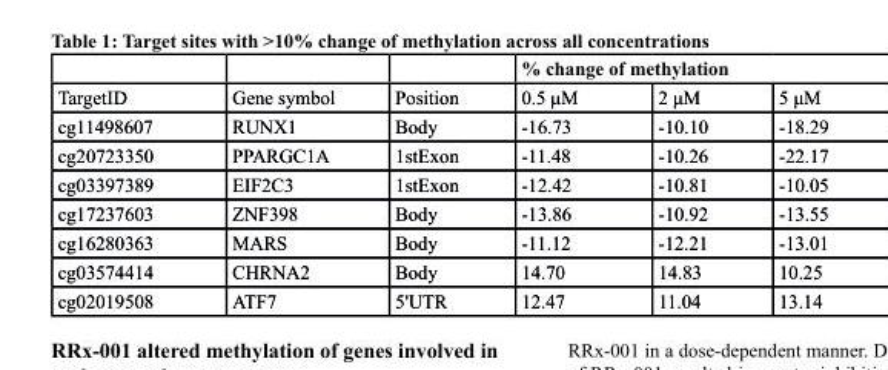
<table><thead><tr><td rowspan="2">TargetID</td><td rowspan="2">Gene symbol</td><td rowspan="2">Position</td><td colspan="3">% change of methylation</td></tr><tr><td>0.5 μM</td><td>2 μM</td><td>5 μM</td></tr></thead><tbody><tr><td>cg11498607</td><td>RUNX1</td><td>Body</td><td>-16.73</td><td>-10.10</td><td>-18.29</td></tr><tr><td>cg20723350</td><td>PPARGC1A</td><td>1stExon</td><td>-11.48</td><td>-10.26</td><td>-22.17</td></tr><tr><td>cg03397389</td><td>EIF2C3</td><td>1stExon</td><td>-12.42</td><td>-10.81</td><td>-10.05</td></tr><tr><td>cg17237603</td><td>ZNF398</td><td>Body</td><td>-13.86</td><td>-10.92</td><td>-13.55</td></tr><tr><td>cg16280363</td><td>MARS</td><td>Body</td><td>-11.12</td><td>-12.21</td><td>-13.01</td></tr><tr><td>cg03574414</td><td>CHRNA2</td><td>Body</td><td>14.70</td><td>14.83</td><td>10.25</td></tr><tr><td>cg02019508</td><td>ATF7</td><td>5&#x27;UTR</td><td>12.47</td><td>11.04</td><td>13.14</td></tr></tbody></table>